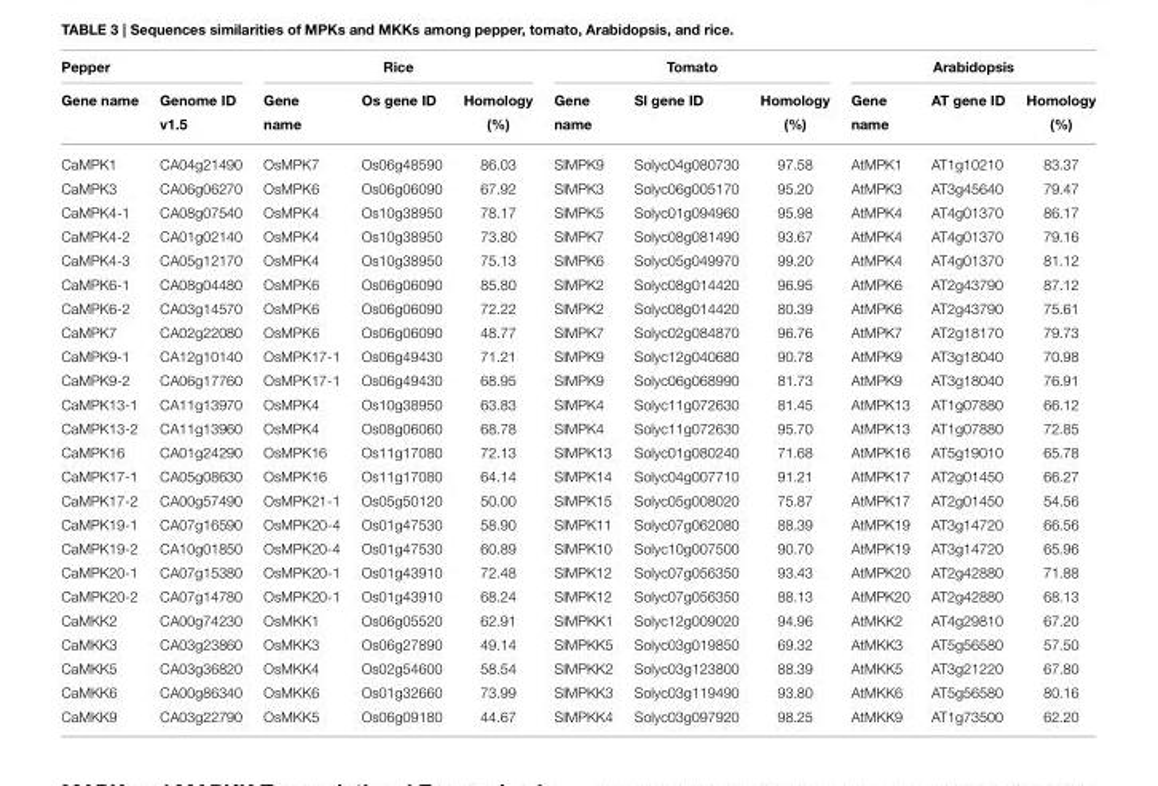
<table><thead><tr><td colspan="2">Pepper</td><td colspan="3">Rice</td><td colspan="3">Tomato</td><td colspan="3">Arabidopsis</td></tr><tr><td>Gene name</td><td>Genome ID v1.5</td><td>Gene name</td><td>Os gene ID</td><td>Homology (%)</td><td>Gene name</td><td>Sl gene ID</td><td>Homology (%)</td><td>Gene name</td><td>AT gene ID</td><td>Homology (%)</td></tr></thead><tbody><tr><td>CaMPK1</td><td>CA04g21490</td><td>OsMPK7</td><td>Os06g48590</td><td>86.03</td><td>SlMPK9</td><td>Solyc04g080730</td><td>97.58</td><td>AtMPK1</td><td>AT1g10210</td><td>83.37</td></tr><tr><td>CaMPK3</td><td>CA06g06270</td><td>OsMPK6</td><td>Os06g06090</td><td>67.92</td><td>SlMPK3</td><td>Solyc06g005170</td><td>95.20</td><td>AtMPK3</td><td>AT3g45640</td><td>79.47</td></tr><tr><td>CaMPK4-1</td><td>CA08g07540</td><td>OsMPK4</td><td>Os10g38950</td><td>78.17</td><td>SlMPK5</td><td>Solyc01g094960</td><td>95.98</td><td>AtMPK4</td><td>AT4g01370</td><td>86.17</td></tr><tr><td>CaMPK4-2</td><td>CA01g02140</td><td>OsMPK4</td><td>Os10g38950</td><td>73.80</td><td>SlMPK7</td><td>Solyc08g081490</td><td>93.67</td><td>AtMPK4</td><td>AT4g01370</td><td>79.16</td></tr><tr><td>CaMPK4-3</td><td>CA05g12170</td><td>OsMPK4</td><td>Os10g38950</td><td>75.13</td><td>SlMPK6</td><td>Solyc05g049970</td><td>99.20</td><td>AtMPK4</td><td>AT4g01370</td><td>81.12</td></tr><tr><td>CaMPK6-1</td><td>CA08g04480</td><td>OsMPK6</td><td>Os06g06090</td><td>85.80</td><td>SlMPK2</td><td>Solyc08g014420</td><td>96.95</td><td>AtMPK6</td><td>AT2g43790</td><td>87.12</td></tr><tr><td>CaMPK6-2</td><td>CA03g14570</td><td>OsMPK6</td><td>Os06g06090</td><td>72.22</td><td>SlMPK2</td><td>Solyc08g014420</td><td>80.39</td><td>AtMPK6</td><td>AT2g43790</td><td>75.61</td></tr><tr><td>CaMPK7</td><td>CA02g22080</td><td>OsMPK6</td><td>Os06g06090</td><td>48.77</td><td>SlMPK7</td><td>Solyc02g084870</td><td>96.76</td><td>AtMPK7</td><td>AT2g18170</td><td>79.73</td></tr><tr><td>CaMPK9-1</td><td>CA12g10140</td><td>OsMPK17-1</td><td>Os06g49430</td><td>71.21</td><td>SlMPK9</td><td>Solyc12g040680</td><td>90.78</td><td>AtMPK9</td><td>AT3g18040</td><td>70.98</td></tr><tr><td>CaMPK9-2</td><td>CA06g17760</td><td>OsMPK17-1</td><td>Os06g49430</td><td>68.95</td><td>SlMPK9</td><td>Solyc06g068990</td><td>81.73</td><td>AtMPK9</td><td>AT3g18040</td><td>76.91</td></tr><tr><td>CaMPK13-1</td><td>CA11g13970</td><td>OsMPK4</td><td>Os10g38950</td><td>63.83</td><td>SlMPK4</td><td>Solyc11g072630</td><td>81.45</td><td>AtMPK13</td><td>AT1g07880</td><td>66.12</td></tr><tr><td>CaMPK13-2</td><td>CA11g13960</td><td>OsMPK4</td><td>Os08g06060</td><td>68.78</td><td>SlMPK4</td><td>Solyc11g072630</td><td>95.70</td><td>AtMPK13</td><td>AT1g07880</td><td>72.85</td></tr><tr><td>CaMPK16</td><td>CA01g24290</td><td>OsMPK16</td><td>Os11g17080</td><td>72.13</td><td>SlMPK13</td><td>Solyc01g080240</td><td>71.68</td><td>AtMPK16</td><td>AT5g19010</td><td>65.78</td></tr><tr><td>CaMPK17-1</td><td>CA05g08630</td><td>OsMPK16</td><td>Os11g17080</td><td>64.14</td><td>SlMPK14</td><td>Solyc04g007710</td><td>91.21</td><td>AtMPK17</td><td>AT2g01450</td><td>66.27</td></tr><tr><td>CaMPK17-2</td><td>CA00g57490</td><td>OsMPK21-1</td><td>Os05g50120</td><td>50.00</td><td>SlMPK15</td><td>Solyc05g008020</td><td>75.87</td><td>AtMPK17</td><td>AT2g01450</td><td>54.56</td></tr><tr><td>CaMPK19-1</td><td>CA07g16590</td><td>OsMPK20-4</td><td>Os01g47530</td><td>58.90</td><td>SlMPK11</td><td>Solyc07g062080</td><td>88.39</td><td>AtMPK19</td><td>AT3g14720</td><td>66.56</td></tr><tr><td>CaMPK19-2</td><td>CA10g01850</td><td>OsMPK20-4</td><td>Os01g47530</td><td>60.89</td><td>SlMPK10</td><td>Solyc10g007500</td><td>90.70</td><td>AtMPK19</td><td>AT3g14720</td><td>65.96</td></tr><tr><td>CaMPK20-1</td><td>CA07g15380</td><td>OsMPK20-1</td><td>Os01g43910</td><td>72.48</td><td>SlMPK12</td><td>Solyc07g056350</td><td>93.43</td><td>AtMPK20</td><td>AT2g42880</td><td>71.88</td></tr><tr><td>CaMPK20-2</td><td>CA07g14780</td><td>OsMPK20-1</td><td>Os01g43910</td><td>68.24</td><td>SlMPK12</td><td>Solyc07g056350</td><td>88.13</td><td>AtMPK20</td><td>AT2g42880</td><td>68.13</td></tr><tr><td>CaMKK2</td><td>CA00g74230</td><td>OsMKK1</td><td>Os06g05520</td><td>62.91</td><td>SlMPKK1</td><td>Solyc12g009020</td><td>94.96</td><td>AtMKK2</td><td>AT4g29810</td><td>67.20</td></tr><tr><td>CaMKK3</td><td>CA03g23860</td><td>OsMKK3</td><td>Os06g27890</td><td>49.14</td><td>SlMPKK5</td><td>Solyc03g019850</td><td>69.32</td><td>AtMKK3</td><td>AT5g56580</td><td>57.50</td></tr><tr><td>CaMKK5</td><td>CA03g36820</td><td>OsMKK4</td><td>Os02g54600</td><td>58.54</td><td>SlMPKK2</td><td>Solyc03g123800</td><td>88.39</td><td>AtMKK5</td><td>AT3g21220</td><td>67.80</td></tr><tr><td>CaMKK6</td><td>CA00g86340</td><td>OsMKK6</td><td>Os01g32660</td><td>73.99</td><td>SlMPKK3</td><td>Solyc03g119490</td><td>93.80</td><td>AtMKK6</td><td>AT5g56580</td><td>80.16</td></tr><tr><td>CaMKK9</td><td>CA03g22790</td><td>OsMKK5</td><td>Os06g09180</td><td>44.67</td><td>SlMPKK4</td><td>Solyc03g097920</td><td>98.25</td><td>AtMKK9</td><td>AT1g73500</td><td>62.20</td></tr></tbody></table>